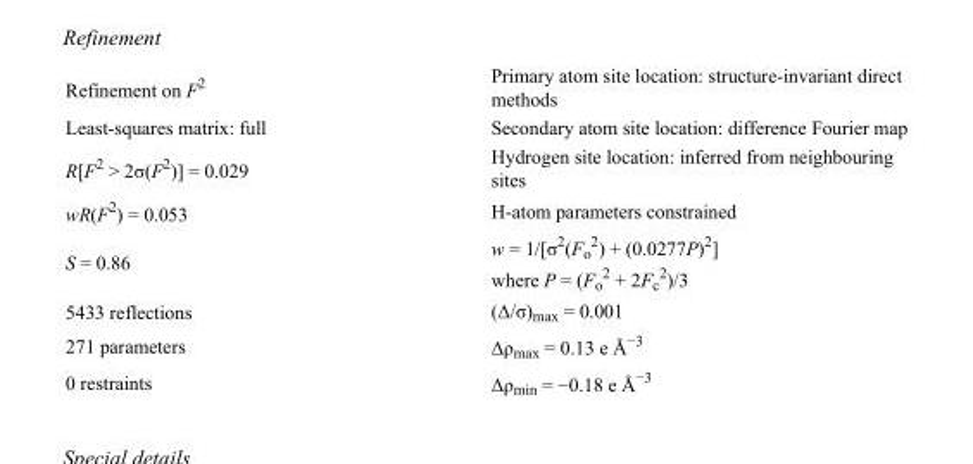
<table><tbody><tr><td>Refinement on F<sup>2</sup></td><td>Primary atom site location: structure-invariant direct methods</td></tr><tr><td>Least-squares matrix: full</td><td>Secondary atom site location: difference Fourier map</td></tr><tr><td>R[F<sup>2</sup> &gt; 2σ(F<sup>2</sup>)] = 0.029</td><td>Hydrogen site location: inferred from neighbouring sites</td></tr><tr><td>wR(F<sup>2</sup>) = 0.053</td><td>H-atom parameters constrained</td></tr><tr><td>S = 0.86</td><td>w = 1/[σ<sup>2</sup>(F<sub>o</sub> <sup>2</sup>) + (0.0277P)<sup>2</sup>] where P = (F<sub>o</sub> <sup>2</sup> + 2F<sub>c</sub> <sup>2</sup>)/3</td></tr><tr><td>5433 reflections</td><td>(Δ/σ)<sub>max</sub> = 0.001</td></tr><tr><td>271 parameters</td><td>Δρ<sub>max</sub> = 0.13 e Å<sup>−3</sup></td></tr><tr><td>0 restraints</td><td>Δρ<sub>min</sub> = −0.18 e Å<sup>−3</sup></td></tr></tbody></table>